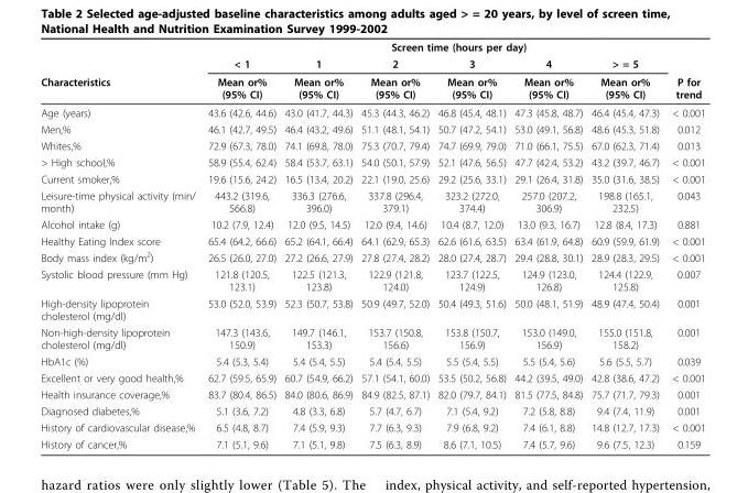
<table><thead><tr><td rowspan="3">Characteristics</td><td colspan="7">Screen time (hours per day)</td></tr><tr><td rowspan="2">&lt; 1 Mean or% (95% CI)</td><td rowspan="2">1 Mean or% (95% CI)</td><td rowspan="2">2 Mean or% (95% CI)</td><td rowspan="2">3 Mean or% (95% CI)</td><td rowspan="2">4 Mean or% (95% CI)</td><td rowspan="2">&gt; = 5 Mean or% (95% CI)</td><td rowspan="2">P for trend</td></tr><tr></tr></thead><tbody><tr><td>Age (years)</td><td>43.6 (42.6, 44.6)</td><td>43.0 (41.7, 44.3)</td><td>45.3 (44.3, 46.2)</td><td>46.8 (45.4, 48.1)</td><td>47.3 (45.8, 48.7)</td><td>46.4 (45.4, 47.3)</td><td>&lt; 0.001</td></tr><tr><td>Men,%</td><td>46.1 (42.7, 49.5)</td><td>46.4 (43.2, 49.6)</td><td>51.1 (48.1, 54.1)</td><td>50.7 (47.2, 54.1)</td><td>53.0 (49.1, 56.8)</td><td>48.6 (45.3, 51.8)</td><td>0.012</td></tr><tr><td>Whites,%</td><td>72.9 (67.3, 78.0)</td><td>74.1 (69.8, 78.0)</td><td>75.3 (70.7, 79.4)</td><td>74.7 (69.9, 79.0)</td><td>71.0 (66.1, 75.5)</td><td>67.0 (62.3, 71.4)</td><td>0.013</td></tr><tr><td>&gt; High school,%</td><td>58.9 (55.4, 62.4)</td><td>58.4 (53.7, 63.1)</td><td>54.0 (50.1, 57.9)</td><td>52.1 (47.6, 56.5)</td><td>47.7 (42.4, 53.2)</td><td>43.2 (39.7, 46.7)</td><td>&lt; 0.001</td></tr><tr><td>Current smoker,%</td><td>19.6 (15.6, 24.2)</td><td>16.5 (13.4, 20.2)</td><td>22.1 (19.0, 25.6)</td><td>29.2 (25.6, 33.1)</td><td>29.1 (26.4, 31.8)</td><td>35.0 (31.6, 38.5)</td><td>&lt; 0.001</td></tr><tr><td>Leisure-time physical activity (min/ month)</td><td>443.2 (319.6, 566.8)</td><td>336.3 (276.6, 396.0)</td><td>337.8 (296.4, 379.1)</td><td>323.2 (272.0, 374.4)</td><td>257.0 (207.2, 306.9)</td><td>198.8 (165.1, 232.5)</td><td>0.043</td></tr><tr><td>Alcohol intake (g)</td><td>10.2 (7.9, 12.4)</td><td>12.0 (9.5, 14.5)</td><td>12.0 (9.4, 14.6)</td><td>10.4 (8.7, 12.0)</td><td>13.0 (9.3, 16.7)</td><td>12.8 (8.4, 17.3)</td><td>0.881</td></tr><tr><td>Healthy Eating Index score</td><td>65.4 (64.2, 66.6)</td><td>65.2 (64.1, 66.4)</td><td>64.1 (62.9, 65.3)</td><td>62.6 (61.6, 63.5)</td><td>63.4 (61.9, 64.8)</td><td>60.9 (59.9, 61.9)</td><td>&lt; 0.001</td></tr><tr><td>Body mass index (kg/m<sup>2</sup>)</td><td>26.5 (26.0, 27.0)</td><td>27.2 (26.6, 27.9)</td><td>27.8 (27.4, 28.2)</td><td>28.0 (27.4, 28.7)</td><td>29.4 (28.8, 30.1)</td><td>28.9 (28.3, 29.5)</td><td>&lt; 0.001</td></tr><tr><td>Systolic blood pressure (mm Hg)</td><td>121.8 (120.5, 123.1)</td><td>122.5 (121.3, 123.8)</td><td>122.9 (121.8, 124.0)</td><td>123.7 (122.5, 124.9)</td><td>124.9 (123.0, 126.8)</td><td>124.4 (122.9, 125.8)</td><td>0.007</td></tr><tr><td>High-density lipoprotein cholesterol (mg/dl)</td><td>53.0 (52.0, 53.9)</td><td>52.3 (50.7, 53.8)</td><td>50.9 (49.7, 52.0)</td><td>50.4 (49.3, 51.6)</td><td>50.0 (48.1, 51.9)</td><td>48.9 (47.4, 50.4)</td><td>0.001</td></tr><tr><td>Non-high-density lipoprotein cholesterol (mg/dl)</td><td>147.3 (143.6, 150.9)</td><td>149.7 (146.1, 153.3)</td><td>153.7 (150.8, 156.6)</td><td>153.8 (150.7, 156.9)</td><td>153.0 (149.0, 156.9)</td><td>155.0 (151.8, 158.2)</td><td>0.001</td></tr><tr><td>HbA1c (%)</td><td>5.4 (5.3, 5.4)</td><td>5.4 (5.4, 5.5)</td><td>5.4 (5.4, 5.5)</td><td>5.5 (5.4, 5.5)</td><td>5.5 (5.4, 5.6)</td><td>5.6 (5.5, 5.7)</td><td>0.039</td></tr><tr><td>Excellent or very good health,%</td><td>62.7 (59.5, 65.9)</td><td>60.7 (54.9, 66.2)</td><td>57.1 (54.1, 60.0)</td><td>53.5 (50.2, 56.8)</td><td>44.2 (39.5, 49.0)</td><td>42.8 (38.6, 47.2)</td><td>&lt; 0.001</td></tr><tr><td>Health insurance coverage,%</td><td>83.7 (80.4, 86.5)</td><td>84.0 (80.6, 86.9)</td><td>84.9 (82.5, 87.1)</td><td>82.0 (79.7, 84.1)</td><td>81.5 (77.5, 84.8)</td><td>75.7 (71.7, 79.3)</td><td>0.001</td></tr><tr><td>Diagnosed diabetes,%</td><td>5.1 (3.6, 7.2)</td><td>4.8 (3.3, 6.8)</td><td>5.7 (4.7, 6.7)</td><td>7.1 (5.4, 9.2)</td><td>7.2 (5.8, 8.8)</td><td>9.4 (7.4, 11.9)</td><td>0.001</td></tr><tr><td>History of cardiovascular disease,%</td><td>6.5 (4.8, 8.7)</td><td>7.4 (5.9, 9.3)</td><td>7.7 (6.3, 9.3)</td><td>7.9 (6.8, 9.2)</td><td>7.4 (6.1, 8.8)</td><td>14.8 (12.7, 17.3)</td><td>&lt; 0.001</td></tr><tr><td>History of cancer,%</td><td>7.1 (5.1, 9.6)</td><td>7.1 (5.1, 9.8)</td><td>7.5 (6.3, 8.9)</td><td>8.6 (7.1, 10.5)</td><td>7.4 (5.7, 9.6)</td><td>9.6 (7.5, 12.3)</td><td>0.159</td></tr></tbody></table>